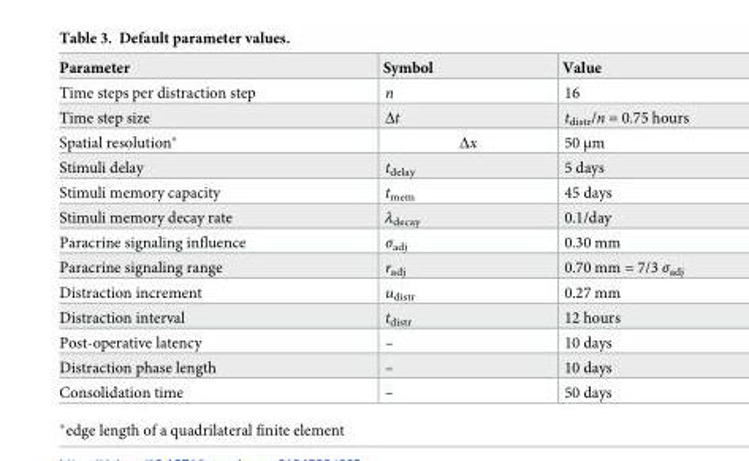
<table><thead><tr><td>Parameter</td><td>Symbol</td><td>Value</td></tr></thead><tbody><tr><td>Time steps per distraction step</td><td>n</td><td>16</td></tr><tr><td>Time step size</td><td>Δt</td><td>t<sub>distr</sub>/n = 0.75 hours</td></tr><tr><td>Spatial resolution*</td><td>Δx</td><td>50 μm</td></tr><tr><td>Stimuli delay</td><td>t<sub>delay</sub></td><td>5 days</td></tr><tr><td>Stimuli memory capacity</td><td>t<sub>mem</sub></td><td>45 days</td></tr><tr><td>Stimuli memory decay rate</td><td>λ<sub>decay</sub></td><td>0.1/day</td></tr><tr><td>Paracrine signaling influence</td><td>σ<sub>adj</sub></td><td>0.30 mm</td></tr><tr><td>Paracrine signaling range</td><td>r<sub>adj</sub></td><td>0.70 mm = 7/3 σ<sub>adj</sub></td></tr><tr><td>Distraction increment</td><td>u<sub>distr</sub></td><td>0.27 mm</td></tr><tr><td>Distraction interval</td><td>t<sub>distr</sub></td><td>12 hours</td></tr><tr><td>Post-operative latency</td><td>–</td><td>10 days</td></tr><tr><td>Distraction phase length</td><td>–</td><td>10 days</td></tr><tr><td>Consolidation time</td><td>–</td><td>50 days</td></tr></tbody></table>